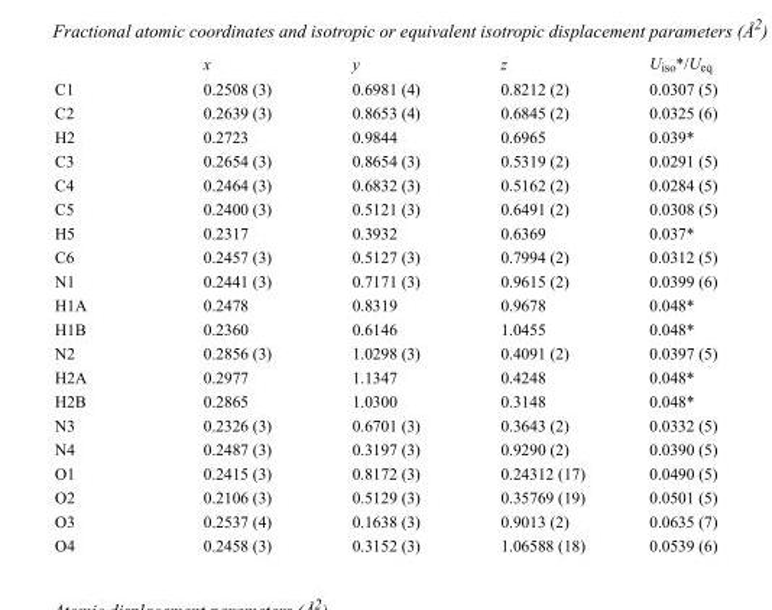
<table><thead><tr><td></td><td>x</td><td>y</td><td>z</td><td>U<sub>iso</sub>*/U<sub>eq</sub></td></tr></thead><tbody><tr><td>C1</td><td>0.2508 (3)</td><td>0.6981 (4)</td><td>0.8212 (2)</td><td>0.0307 (5)</td></tr><tr><td>C2</td><td>0.2639 (3)</td><td>0.8653 (4)</td><td>0.6845 (2)</td><td>0.0325 (6)</td></tr><tr><td>H2</td><td>0.2723</td><td>0.9844</td><td>0.6965</td><td>0.039*</td></tr><tr><td>C3</td><td>0.2654 (3)</td><td>0.8654 (3)</td><td>0.5319 (2)</td><td>0.0291 (5)</td></tr><tr><td>C4</td><td>0.2464 (3)</td><td>0.6832 (3)</td><td>0.5162 (2)</td><td>0.0284 (5)</td></tr><tr><td>C5</td><td>0.2400 (3)</td><td>0.5121 (3)</td><td>0.6491 (2)</td><td>0.0308 (5)</td></tr><tr><td>H5</td><td>0.2317</td><td>0.3932</td><td>0.6369</td><td>0.037*</td></tr><tr><td>C6</td><td>0.2457 (3)</td><td>0.5127 (3)</td><td>0.7994 (2)</td><td>0.0312 (5)</td></tr><tr><td>N1</td><td>0.2441 (3)</td><td>0.7171 (3)</td><td>0.9615 (2)</td><td>0.0399 (6)</td></tr><tr><td>H1A</td><td>0.2478</td><td>0.8319</td><td>0.9678</td><td>0.048*</td></tr><tr><td>H1B</td><td>0.2360</td><td>0.6146</td><td>1.0455</td><td>0.048*</td></tr><tr><td>N2</td><td>0.2856 (3)</td><td>1.0298 (3)</td><td>0.4091 (2)</td><td>0.0397 (5)</td></tr><tr><td>H2A</td><td>0.2977</td><td>1.1347</td><td>0.4248</td><td>0.048*</td></tr><tr><td>H2B</td><td>0.2865</td><td>1.0300</td><td>0.3148</td><td>0.048*</td></tr><tr><td>N3</td><td>0.2326 (3)</td><td>0.6701 (3)</td><td>0.3643 (2)</td><td>0.0332 (5)</td></tr><tr><td>N4</td><td>0.2487 (3)</td><td>0.3197 (3)</td><td>0.9290 (2)</td><td>0.0390 (5)</td></tr><tr><td>O1</td><td>0.2415 (3)</td><td>0.8172 (3)</td><td>0.24312 (17)</td><td>0.0490 (5)</td></tr><tr><td>O2</td><td>0.2106 (3)</td><td>0.5129 (3)</td><td>0.35769 (19)</td><td>0.0501 (5)</td></tr><tr><td>O3</td><td>0.2537 (4)</td><td>0.1638 (3)</td><td>0.9013 (2)</td><td>0.0635 (7)</td></tr><tr><td>O4</td><td>0.2458 (3)</td><td>0.3152 (3)</td><td>1.06588 (18)</td><td>0.0539 (6)</td></tr></tbody></table>